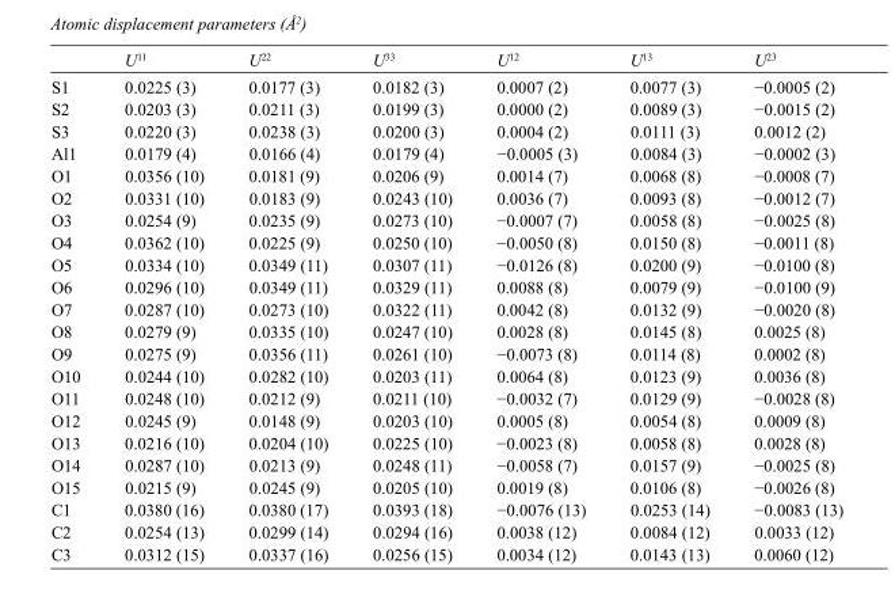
<table><thead><tr><td></td><td>U<sup>11</sup></td><td>U<sup>22</sup></td><td>U<sup>33</sup></td><td>U<sup>12</sup></td><td>U<sup>13</sup></td><td>U<sup>23</sup></td></tr></thead><tbody><tr><td>S1</td><td>0.0225 (3)</td><td>0.0177 (3)</td><td>0.0182 (3)</td><td>0.0007 (2)</td><td>0.0077 (3)</td><td>−0.0005 (2)</td></tr><tr><td>S2</td><td>0.0203 (3)</td><td>0.0211 (3)</td><td>0.0199 (3)</td><td>0.0000 (2)</td><td>0.0089 (3)</td><td>−0.0015 (2)</td></tr><tr><td>S3</td><td>0.0220 (3)</td><td>0.0238 (3)</td><td>0.0200 (3)</td><td>0.0004 (2)</td><td>0.0111 (3)</td><td>0.0012 (2)</td></tr><tr><td>Al1</td><td>0.0179 (4)</td><td>0.0166 (4)</td><td>0.0179 (4)</td><td>−0.0005 (3)</td><td>0.0084 (3)</td><td>−0.0002 (3)</td></tr><tr><td>O1</td><td>0.0356 (10)</td><td>0.0181 (9)</td><td>0.0206 (9)</td><td>0.0014 (7)</td><td>0.0068 (8)</td><td>−0.0008 (7)</td></tr><tr><td>O2</td><td>0.0331 (10)</td><td>0.0183 (9)</td><td>0.0243 (10)</td><td>0.0036 (7)</td><td>0.0093 (8)</td><td>−0.0012 (7)</td></tr><tr><td>O3</td><td>0.0254 (9)</td><td>0.0235 (9)</td><td>0.0273 (10)</td><td>−0.0007 (7)</td><td>0.0058 (8)</td><td>−0.0025 (8)</td></tr><tr><td>O4</td><td>0.0362 (10)</td><td>0.0225 (9)</td><td>0.0250 (10)</td><td>−0.0050 (8)</td><td>0.0150 (8)</td><td>−0.0011 (8)</td></tr><tr><td>O5</td><td>0.0334 (10)</td><td>0.0349 (11)</td><td>0.0307 (11)</td><td>−0.0126 (8)</td><td>0.0200 (9)</td><td>−0.0100 (8)</td></tr><tr><td>O6</td><td>0.0296 (10)</td><td>0.0349 (11)</td><td>0.0329 (11)</td><td>0.0088 (8)</td><td>0.0079 (9)</td><td>−0.0100 (9)</td></tr><tr><td>O7</td><td>0.0287 (10)</td><td>0.0273 (10)</td><td>0.0322 (11)</td><td>0.0042 (8)</td><td>0.0132 (9)</td><td>−0.0020 (8)</td></tr><tr><td>O8</td><td>0.0279 (9)</td><td>0.0335 (10)</td><td>0.0247 (10)</td><td>0.0028 (8)</td><td>0.0145 (8)</td><td>0.0025 (8)</td></tr><tr><td>O9</td><td>0.0275 (9)</td><td>0.0356 (11)</td><td>0.0261 (10)</td><td>−0.0073 (8)</td><td>0.0114 (8)</td><td>0.0002 (8)</td></tr><tr><td>O10</td><td>0.0244 (10)</td><td>0.0282 (10)</td><td>0.0203 (11)</td><td>0.0064 (8)</td><td>0.0123 (9)</td><td>0.0036 (8)</td></tr><tr><td>O11</td><td>0.0248 (10)</td><td>0.0212 (9)</td><td>0.0211 (10)</td><td>−0.0032 (7)</td><td>0.0129 (9)</td><td>−0.0028 (8)</td></tr><tr><td>O12</td><td>0.0245 (9)</td><td>0.0148 (9)</td><td>0.0203 (10)</td><td>0.0005 (8)</td><td>0.0054 (8)</td><td>0.0009 (8)</td></tr><tr><td>O13</td><td>0.0216 (10)</td><td>0.0204 (10)</td><td>0.0225 (10)</td><td>−0.0023 (8)</td><td>0.0058 (8)</td><td>0.0028 (8)</td></tr><tr><td>O14</td><td>0.0287 (10)</td><td>0.0213 (9)</td><td>0.0248 (11)</td><td>−0.0058 (7)</td><td>0.0157 (9)</td><td>−0.0025 (8)</td></tr><tr><td>O15</td><td>0.0215 (9)</td><td>0.0245 (9)</td><td>0.0205 (10)</td><td>0.0019 (8)</td><td>0.0106 (8)</td><td>−0.0026 (8)</td></tr><tr><td>C1</td><td>0.0380 (16)</td><td>0.0380 (17)</td><td>0.0393 (18)</td><td>−0.0076 (13)</td><td>0.0253 (14)</td><td>−0.0083 (13)</td></tr><tr><td>C2</td><td>0.0254 (13)</td><td>0.0299 (14)</td><td>0.0294 (16)</td><td>0.0038 (12)</td><td>0.0084 (12)</td><td>0.0033 (12)</td></tr><tr><td>C3</td><td>0.0312 (15)</td><td>0.0337 (16)</td><td>0.0256 (15)</td><td>0.0034 (12)</td><td>0.0143 (13)</td><td>0.0060 (12)</td></tr></tbody></table>